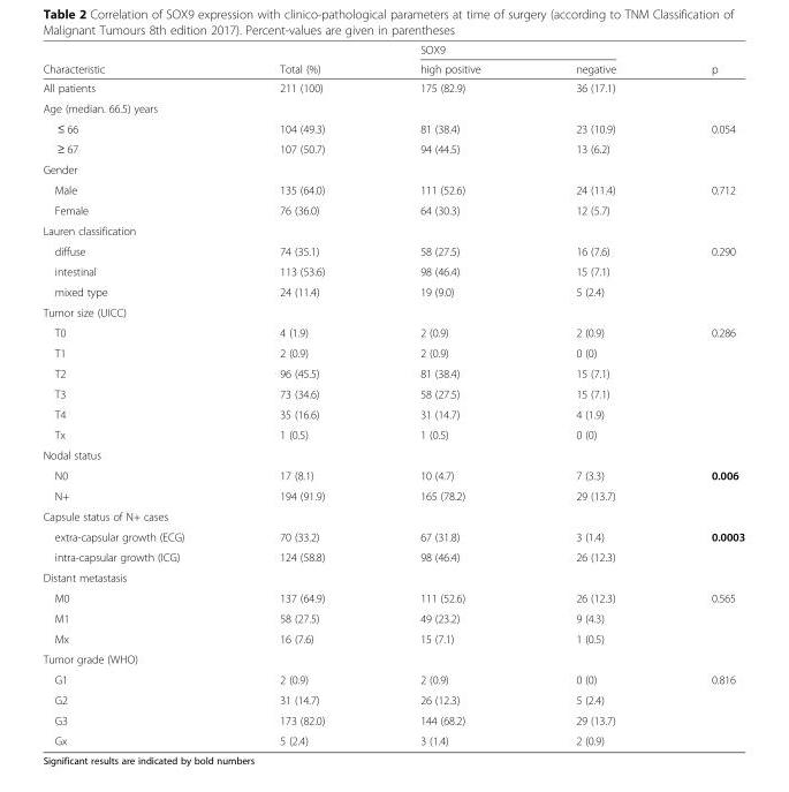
<table><thead><tr><td rowspan="2">Characteristic</td><td rowspan="2">Total (%)</td><td colspan="2">SOX9</td><td rowspan="2">p</td></tr><tr><td>high positive</td><td>negative</td></tr></thead><tbody><tr><td>All patients</td><td>211 (100)</td><td>175 (82.9)</td><td>36 (17.1)</td><td></td></tr><tr><td colspan="5">Age (median. 66.5) years</td></tr><tr><td>≤ 66</td><td>104 (49.3)</td><td>81 (38.4)</td><td>23 (10.9)</td><td>0.054</td></tr><tr><td>≥ 67</td><td>107 (50.7)</td><td>94 (44.5)</td><td>13 (6.2)</td><td></td></tr><tr><td colspan="5">Gender</td></tr><tr><td>Male</td><td>135 (64.0)</td><td>111 (52.6)</td><td>24 (11.4)</td><td>0.712</td></tr><tr><td>Female</td><td>76 (36.0)</td><td>64 (30.3)</td><td>12 (5.7)</td><td></td></tr><tr><td colspan="5">Lauren classification</td></tr><tr><td>diffuse</td><td>74 (35.1)</td><td>58 (27.5)</td><td>16 (7.6)</td><td>0.290</td></tr><tr><td>intestinal</td><td>113 (53.6)</td><td>98 (46.4)</td><td>15 (7.1)</td><td></td></tr><tr><td>mixed type</td><td>24 (11.4)</td><td>19 (9.0)</td><td>5 (2.4)</td><td></td></tr><tr><td colspan="5">Tumor size (UICC)</td></tr><tr><td>T0</td><td>4 (1.9)</td><td>2 (0.9)</td><td>2 (0.9)</td><td>0.286</td></tr><tr><td>T1</td><td>2 (0.9)</td><td>2 (0.9)</td><td>0 (0)</td><td></td></tr><tr><td>T2</td><td>96 (45.5)</td><td>81 (38.4)</td><td>15 (7.1)</td><td></td></tr><tr><td>T3</td><td>73 (34.6)</td><td>58 (27.5)</td><td>15 (7.1)</td><td></td></tr><tr><td>T4</td><td>35 (16.6)</td><td>31 (14.7)</td><td>4 (1.9)</td><td></td></tr><tr><td>Tx</td><td>1 (0.5)</td><td>1 (0.5)</td><td>0 (0)</td><td></td></tr><tr><td colspan="5">Nodal status</td></tr><tr><td>N0</td><td>17 (8.1)</td><td>10 (4.7)</td><td>7 (3.3)</td><td>0.006</td></tr><tr><td>N+</td><td>194 (91.9)</td><td>165 (78.2)</td><td>29 (13.7)</td><td></td></tr><tr><td colspan="5">Capsule status of N+ cases</td></tr><tr><td>extra-capsular growth (ECG)</td><td>70 (33.2)</td><td>67 (31.8)</td><td>3 (1.4)</td><td>0.0003</td></tr><tr><td>intra-capsular growth (ICG)</td><td>124 (58.8)</td><td>98 (46.4)</td><td>26 (12.3)</td><td></td></tr><tr><td colspan="5">Distant metastasis</td></tr><tr><td>M0</td><td>137 (64.9)</td><td>111 (52.6)</td><td>26 (12.3)</td><td>0.565</td></tr><tr><td>M1</td><td>58 (27.5)</td><td>49 (23.2)</td><td>9 (4.3)</td><td></td></tr><tr><td>Mx</td><td>16 (7.6)</td><td>15 (7.1)</td><td>1 (0.5)</td><td></td></tr><tr><td colspan="5">Tumor grade (WHO)</td></tr><tr><td>G1</td><td>2 (0.9)</td><td>2 (0.9)</td><td>0 (0)</td><td>0.816</td></tr><tr><td>G2</td><td>31 (14.7)</td><td>26 (12.3)</td><td>5 (2.4)</td><td></td></tr><tr><td>G3</td><td>173 (82.0)</td><td>144 (68.2)</td><td>29 (13.7)</td><td></td></tr><tr><td>Gx</td><td>5 (2.4)</td><td>3 (1.4)</td><td>2 (0.9)</td><td></td></tr></tbody></table>